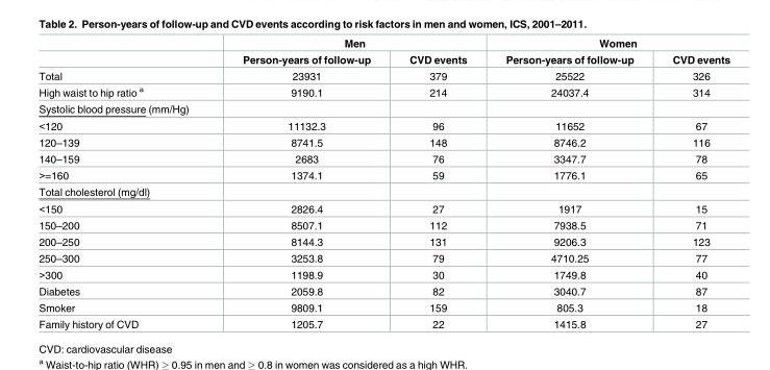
<table><thead><tr><td rowspan="2"></td><td colspan="2">Men</td><td colspan="2">Women</td></tr><tr><td>Person-years of follow-up</td><td>CVD events</td><td>Person-years of follow-up</td><td>CVD events</td></tr></thead><tbody><tr><td>Total</td><td>23931</td><td>379</td><td>25522</td><td>326</td></tr><tr><td>High waist to hip ratio <sup>a</sup></td><td>9190.1</td><td>214</td><td>24037.4</td><td>314</td></tr><tr><td colspan="5">Systolic blood pressure (mm/Hg)</td></tr><tr><td>&lt;120</td><td>11132.3</td><td>96</td><td>11652</td><td>67</td></tr><tr><td>120–139</td><td>8741.5</td><td>148</td><td>8746.2</td><td>116</td></tr><tr><td>140–159</td><td>2683</td><td>76</td><td>3347.7</td><td>78</td></tr><tr><td>&gt;=160</td><td>1374.1</td><td>59</td><td>1776.1</td><td>65</td></tr><tr><td colspan="5">Total cholesterol (mg/dl)</td></tr><tr><td>&lt;150</td><td>2826.4</td><td>27</td><td>1917</td><td>15</td></tr><tr><td>150–200</td><td>8507.1</td><td>112</td><td>7938.5</td><td>71</td></tr><tr><td>200–250</td><td>8144.3</td><td>131</td><td>9206.3</td><td>123</td></tr><tr><td>250–300</td><td>3253.8</td><td>79</td><td>4710.25</td><td>77</td></tr><tr><td>&gt;300</td><td>1198.9</td><td>30</td><td>1749.8</td><td>40</td></tr><tr><td>Diabetes</td><td>2059.8</td><td>82</td><td>3040.7</td><td>87</td></tr><tr><td>Smoker</td><td>9809.1</td><td>159</td><td>805.3</td><td>18</td></tr><tr><td>Family history of CVD</td><td>1205.7</td><td>22</td><td>1415.8</td><td>27</td></tr></tbody></table>